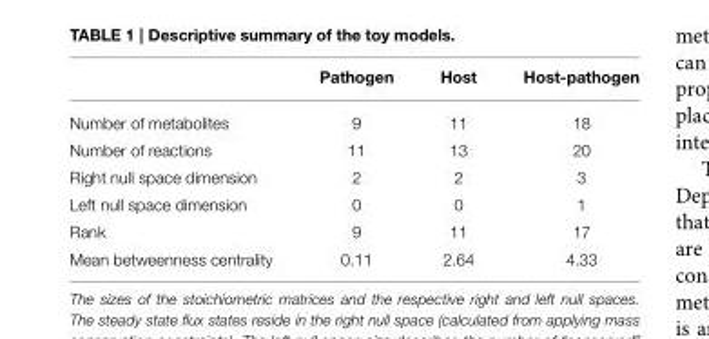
<table><thead><tr><td></td><td>Pathogen</td><td>Host</td><td>Host-pathogen</td></tr></thead><tbody><tr><td>Number of metabolites</td><td>9</td><td>11</td><td>18</td></tr><tr><td>Number of reactions</td><td>11</td><td>13</td><td>20</td></tr><tr><td>Right null space dimension</td><td>2</td><td>2</td><td>3</td></tr><tr><td>Left null space dimension</td><td>0</td><td>0</td><td>1</td></tr><tr><td>Rank</td><td>9</td><td>11</td><td>17</td></tr><tr><td>Mean betweenness centrality</td><td>0.11</td><td>2.64</td><td>4.33</td></tr></tbody></table>